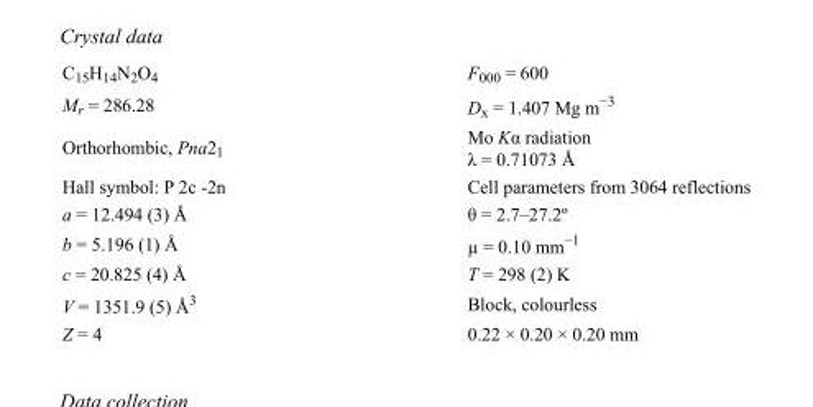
<table><tbody><tr><td>C<sub>15</sub>H<sub>14</sub>N<sub>2</sub>O<sub>4</sub></td><td>F<sub>000</sub> = 600</td></tr><tr><td>M<sub>r</sub> = 286.28</td><td>D<sub>x</sub> = 1.407 Mg m<sup>−3</sup></td></tr><tr><td>Orthorhombic, Pna2<sub>1</sub></td><td>Mo Kα radiation λ = 0.71073 Å</td></tr><tr><td>Hall symbol: P 2c -2n</td><td>Cell parameters from 3064 reflections</td></tr><tr><td>a = 12.494 (3) Å</td><td>θ = 2.7–27.2º</td></tr><tr><td>b = 5.196 (1) Å</td><td>µ = 0.10 mm<sup>−1</sup></td></tr><tr><td>c = 20.825 (4) Å</td><td>T = 298 (2) K</td></tr><tr><td>V = 1351.9 (5) Å<sup>3</sup></td><td>Block, colourless</td></tr><tr><td>Z = 4</td><td>0.22 × 0.20 × 0.20 mm</td></tr></tbody></table>